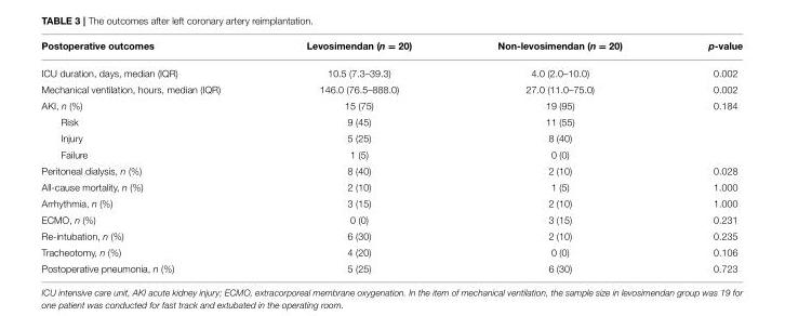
<table><thead><tr><td>Postoperative outcomes</td><td>Levosimendan (n = 20)</td><td>Non-levosimendan (n = 20)</td><td>p-value</td></tr></thead><tbody><tr><td>ICU duration, days, median (IQR)</td><td>10.5 (7.3–39.3)</td><td>4.0 (2.0–10.0)</td><td>0.002</td></tr><tr><td>Mechanical ventilation, hours, median (IQR)</td><td>146.0 (76.5–888.0)</td><td>27.0 (11.0–75.0)</td><td>0.002</td></tr><tr><td>AKI, n (%)</td><td>15 (75)</td><td>19 (95)</td><td>0.184</td></tr><tr><td>Risk</td><td>9 (45)</td><td>11 (55)</td><td></td></tr><tr><td>Injury</td><td>5 (25)</td><td>8 (40)</td><td></td></tr><tr><td>Failure</td><td>1 (5)</td><td>0 (0)</td><td></td></tr><tr><td>Peritoneal dialysis, n (%)</td><td>8 (40)</td><td>2 (10)</td><td>0.028</td></tr><tr><td>All-cause mortality, n (%)</td><td>2 (10)</td><td>1 (5)</td><td>1.000</td></tr><tr><td>Arrhythmia, n (%)</td><td>3 (15)</td><td>2 (10)</td><td>1.000</td></tr><tr><td>ECMO, n (%)</td><td>0 (0)</td><td>3 (15)</td><td>0.231</td></tr><tr><td>Re-intubation, n (%)</td><td>6 (30)</td><td>2 (10)</td><td>0.235</td></tr><tr><td>Tracheotomy, n (%)</td><td>4 (20)</td><td>0 (0)</td><td>0.106</td></tr><tr><td>Postoperative pneumonia, n (%)</td><td>5 (25)</td><td>6 (30)</td><td>0.723</td></tr></tbody></table>